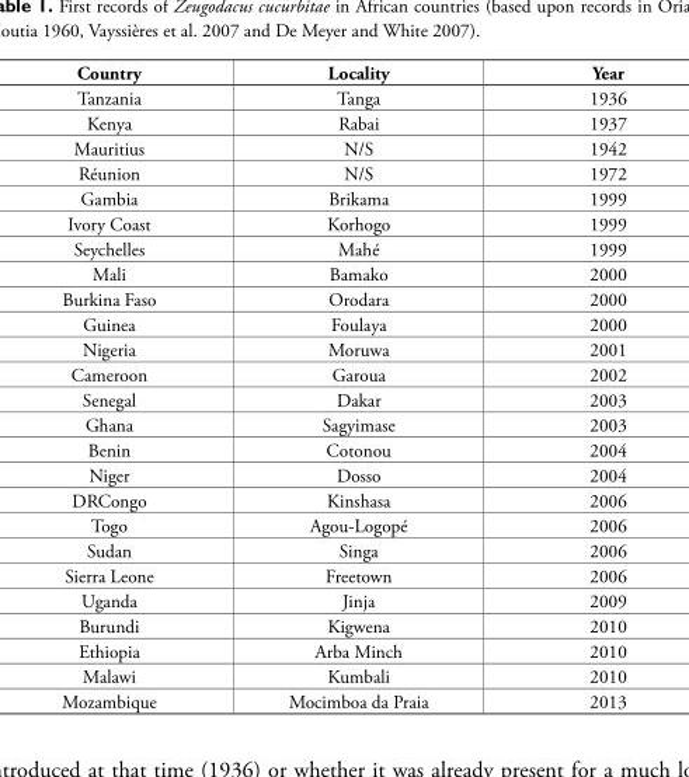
<table><thead><tr><td>Country</td><td>Locality</td><td>Year</td></tr></thead><tbody><tr><td>Tanzania</td><td>Tanga</td><td>1936</td></tr><tr><td>Kenya</td><td>Rabai</td><td>1937</td></tr><tr><td>Mauritius</td><td>N/S</td><td>1942</td></tr><tr><td>Réunion</td><td>N/S</td><td>1972</td></tr><tr><td>Gambia</td><td>Brikama</td><td>1999</td></tr><tr><td>Ivory Coast</td><td>Korhogo</td><td>1999</td></tr><tr><td>Seychelles</td><td>Mahé</td><td>1999</td></tr><tr><td>Mali</td><td>Bamako</td><td>2000</td></tr><tr><td>Burkina Faso</td><td>Orodara</td><td>2000</td></tr><tr><td>Guinea</td><td>Foulaya</td><td>2000</td></tr><tr><td>Nigeria</td><td>Moruwa</td><td>2001</td></tr><tr><td>Cameroon</td><td>Garoua</td><td>2002</td></tr><tr><td>Senegal</td><td>Dakar</td><td>2003</td></tr><tr><td>Ghana</td><td>Sagyimase</td><td>2003</td></tr><tr><td>Benin</td><td>Cotonou</td><td>2004</td></tr><tr><td>Niger</td><td>Dosso</td><td>2004</td></tr><tr><td>DRCongo</td><td>Kinshasa</td><td>2006</td></tr><tr><td>Togo</td><td>Agou-Logopé</td><td>2006</td></tr><tr><td>Sudan</td><td>Singa</td><td>2006</td></tr><tr><td>Sierra Leone</td><td>Freetown</td><td>2006</td></tr><tr><td>Uganda</td><td>Jinja</td><td>2009</td></tr><tr><td>Burundi</td><td>Kigwena</td><td>2010</td></tr><tr><td>Ethiopia</td><td>Arba Minch</td><td>2010</td></tr><tr><td>Malawi</td><td>Kumbali</td><td>2010</td></tr><tr><td>Mozambique</td><td>Mocimboa da Praia</td><td>2013</td></tr></tbody></table>